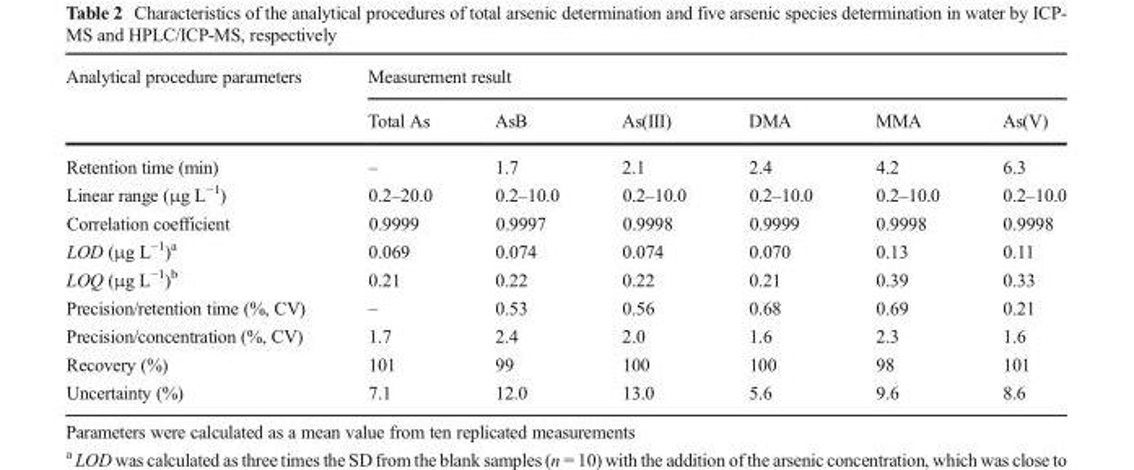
<table><thead><tr><td rowspan="2">Analytical procedure parameters</td><td colspan="6">Measurement result</td></tr><tr><td>Total As</td><td>AsB</td><td>As(III)</td><td>DMA</td><td>MMA</td><td>As(V)</td></tr></thead><tbody><tr><td>Retention time (min)</td><td>–</td><td>1.7</td><td>2.1</td><td>2.4</td><td>4.2</td><td>6.3</td></tr><tr><td>Linear range (μg L<sup>−1</sup>)</td><td>0.2–20.0</td><td>0.2–10.0</td><td>0.2–10.0</td><td>0.2–10.0</td><td>0.2–10.0</td><td>0.2–10.0</td></tr><tr><td>Correlation coefficient</td><td>0.9999</td><td>0.9997</td><td>0.9998</td><td>0.9999</td><td>0.9998</td><td>0.9998</td></tr><tr><td>LOD (μg L<sup>−1</sup>)<sup>a</sup></td><td>0.069</td><td>0.074</td><td>0.074</td><td>0.070</td><td>0.13</td><td>0.11</td></tr><tr><td>LOQ (μg L<sup>−1</sup>)<sup>b</sup></td><td>0.21</td><td>0.22</td><td>0.22</td><td>0.21</td><td>0.39</td><td>0.33</td></tr><tr><td>Precision/retention time (%, CV)</td><td>–</td><td>0.53</td><td>0.56</td><td>0.68</td><td>0.69</td><td>0.21</td></tr><tr><td>Precision/concentration (%, CV)</td><td>1.7</td><td>2.4</td><td>2.0</td><td>1.6</td><td>2.3</td><td>1.6</td></tr><tr><td>Recovery (%)</td><td>101</td><td>99</td><td>100</td><td>100</td><td>98</td><td>101</td></tr><tr><td>Uncertainty (%)</td><td>7.1</td><td>12.0</td><td>13.0</td><td>5.6</td><td>9.6</td><td>8.6</td></tr></tbody></table>